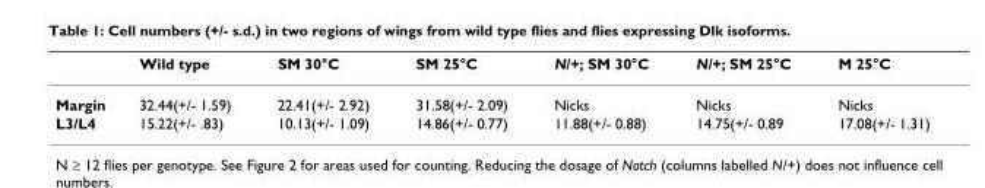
<table><thead><tr><td></td><td>Wild type</td><td>SM 30°C</td><td>SM 25°C</td><td>N/+; SM 30°C</td><td>N/+; SM 25°C</td><td>M 25°C</td></tr></thead><tbody><tr><td>Margin</td><td>32.44(+/- 1.59)</td><td>22.41(+/- 2.92)</td><td>31.58(+/- 2.09)</td><td>Nicks</td><td>Nicks</td><td>Nicks</td></tr><tr><td>L3/L4</td><td>15.22(+/- .83)</td><td>10.13(+/- 1.09)</td><td>14.86(+/- 0.77)</td><td>11.88(+/- 0.88)</td><td>14.75(+/- 0.89</td><td>17.08(+/- 1.31)</td></tr></tbody></table>